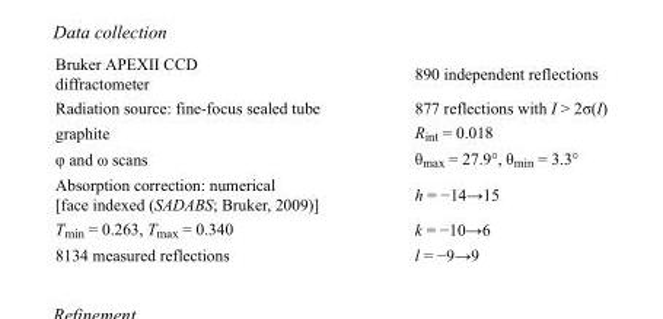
<table><tbody><tr><td>Bruker APEXII CCD diffractometer</td><td>890 independent reflections</td></tr><tr><td>Radiation source: fine-focus sealed tube</td><td>877 reflections with I &gt; 2σ(I)</td></tr><tr><td>graphite</td><td>R<sub>int</sub> = 0.018</td></tr><tr><td>φ and ω scans</td><td>θ<sub>max</sub> = 27.9°, θ<sub>min</sub> = 3.3°</td></tr><tr><td>Absorption correction: numerical [face indexed (SADABS; Bruker, 2009)]</td><td>h = −14→15</td></tr><tr><td>T<sub>min</sub> = 0.263, T<sub>max</sub> = 0.340</td><td>k = −10→6</td></tr><tr><td>8134 measured reflections</td><td>l = −9→9</td></tr></tbody></table>